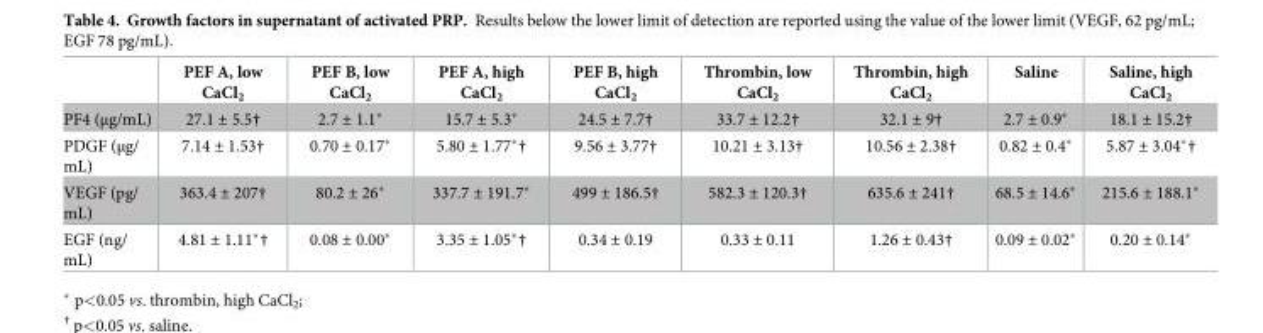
<table><thead><tr><td></td><td>PEF A, low CaCl<sub>2</sub></td><td>PEF B, low CaCl<sub>2</sub></td><td>PEF A, high CaCl<sub>2</sub></td><td>PEF B, high CaCl<sub>2</sub></td><td>Thrombin, low CaCl<sub>2</sub></td><td>Thrombin, high CaCl<sub>2</sub></td><td>Saline</td><td>Saline, high CaCl<sub>2</sub></td></tr></thead><tbody><tr><td>PF4 (μg/mL)</td><td>27.1 ± 5.5†</td><td>2.7 ± 1.1*</td><td>15.7 ± 5.3*</td><td>24.5 ± 7.7†</td><td>33.7 ± 12.2†</td><td>32.1 ± 9†</td><td>2.7 ± 0.9*</td><td>18.1 ± 15.2†</td></tr><tr><td>PDGF (μg/ mL)</td><td>7.14 ± 1.53†</td><td>0.70 ± 0.17*</td><td>5.80 ± 1.77*†</td><td>9.56 ± 3.77†</td><td>10.21 ± 3.13†</td><td>10.56 ± 2.38†</td><td>0.82 ± 0.4*</td><td>5.87 ± 3.04*†</td></tr><tr><td>VEGF (pg/ mL)</td><td>363.4 ± 207†</td><td>80.2 ± 26*</td><td>337.7 ± 191.7*</td><td>499 ± 186.5†</td><td>582.3 ± 120.3†</td><td>635.6 ± 241†</td><td>68.5 ± 14.6*</td><td>215.6 ± 188.1*</td></tr><tr><td>EGF (ng/ mL)</td><td>4.81 ± 1.11*†</td><td>0.08 ± 0.00*</td><td>3.35 ± 1.05*†</td><td>0.34 ± 0.19</td><td>0.33 ± 0.11</td><td>1.26 ± 0.43†</td><td>0.09 ± 0.02*</td><td>0.20 ± 0.14*</td></tr></tbody></table>